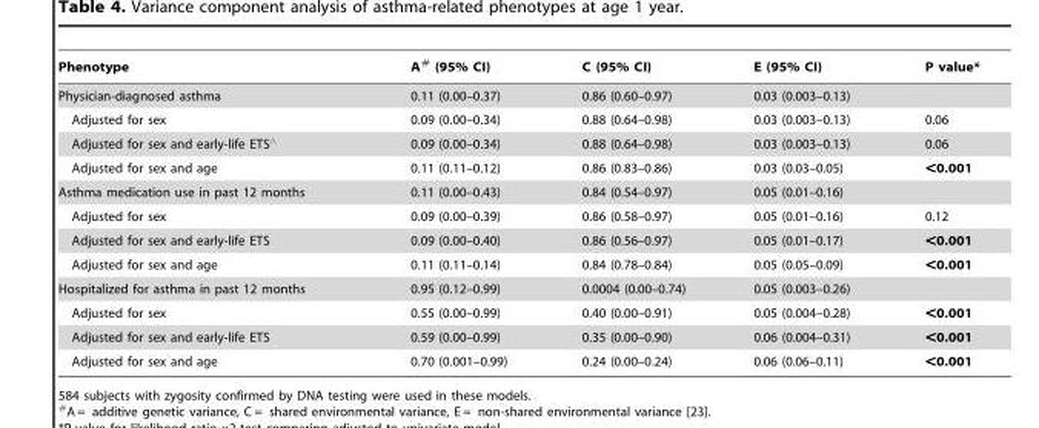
<table><thead><tr><td>Phenotype</td><td>A# (95% CI)</td><td>C (95% CI)</td><td>E (95% CI)</td><td>P value*</td></tr></thead><tbody><tr><td>Physician-diagnosed asthma</td><td>0.11 (0.00–0.37)</td><td>0.86 (0.60–0.97)</td><td>0.03 (0.003–0.13)</td><td></td></tr><tr><td>Adjusted for sex</td><td>0.09 (0.00–0.34)</td><td>0.88 (0.64–0.98)</td><td>0.03 (0.003–0.13)</td><td>0.06</td></tr><tr><td>Adjusted for sex and early-life ETS‘</td><td>0.09 (0.00–0.34)</td><td>0.88 (0.64–0.98)</td><td>0.03 (0.003–0.13)</td><td>0.06</td></tr><tr><td>Adjusted for sex and age</td><td>0.11 (0.11–0.12)</td><td>0.86 (0.83–0.86)</td><td>0.03 (0.03–0.05)</td><td>&lt;0.001</td></tr><tr><td>Asthma medication use in past 12 months</td><td>0.11 (0.00–0.43)</td><td>0.84 (0.54–0.97)</td><td>0.05 (0.01–0.16)</td><td></td></tr><tr><td>Adjusted for sex</td><td>0.09 (0.00–0.39)</td><td>0.86 (0.58–0.97)</td><td>0.05 (0.01–0.16)</td><td>0.12</td></tr><tr><td>Adjusted for sex and early-life ETS</td><td>0.09 (0.00–0.40)</td><td>0.86 (0.56–0.97)</td><td>0.05 (0.01–0.17)</td><td>&lt;0.001</td></tr><tr><td>Adjusted for sex and age</td><td>0.11 (0.11–0.14)</td><td>0.84 (0.78–0.84)</td><td>0.05 (0.05–0.09)</td><td>&lt;0.001</td></tr><tr><td>Hospitalized for asthma in past 12 months</td><td>0.95 (0.12–0.99)</td><td>0.0004 (0.00–0.74)</td><td>0.05 (0.003–0.26)</td><td></td></tr><tr><td>Adjusted for sex</td><td>0.55 (0.00–0.99)</td><td>0.40 (0.00–0.91)</td><td>0.05 (0.004–0.28)</td><td>&lt;0.001</td></tr><tr><td>Adjusted for sex and early-life ETS</td><td>0.59 (0.00–0.99)</td><td>0.35 (0.00–0.90)</td><td>0.06 (0.004–0.31)</td><td>&lt;0.001</td></tr><tr><td>Adjusted for sex and age</td><td>0.70 (0.001–0.99)</td><td>0.24 (0.00–0.24)</td><td>0.06 (0.06–0.11)</td><td>&lt;0.001</td></tr></tbody></table>